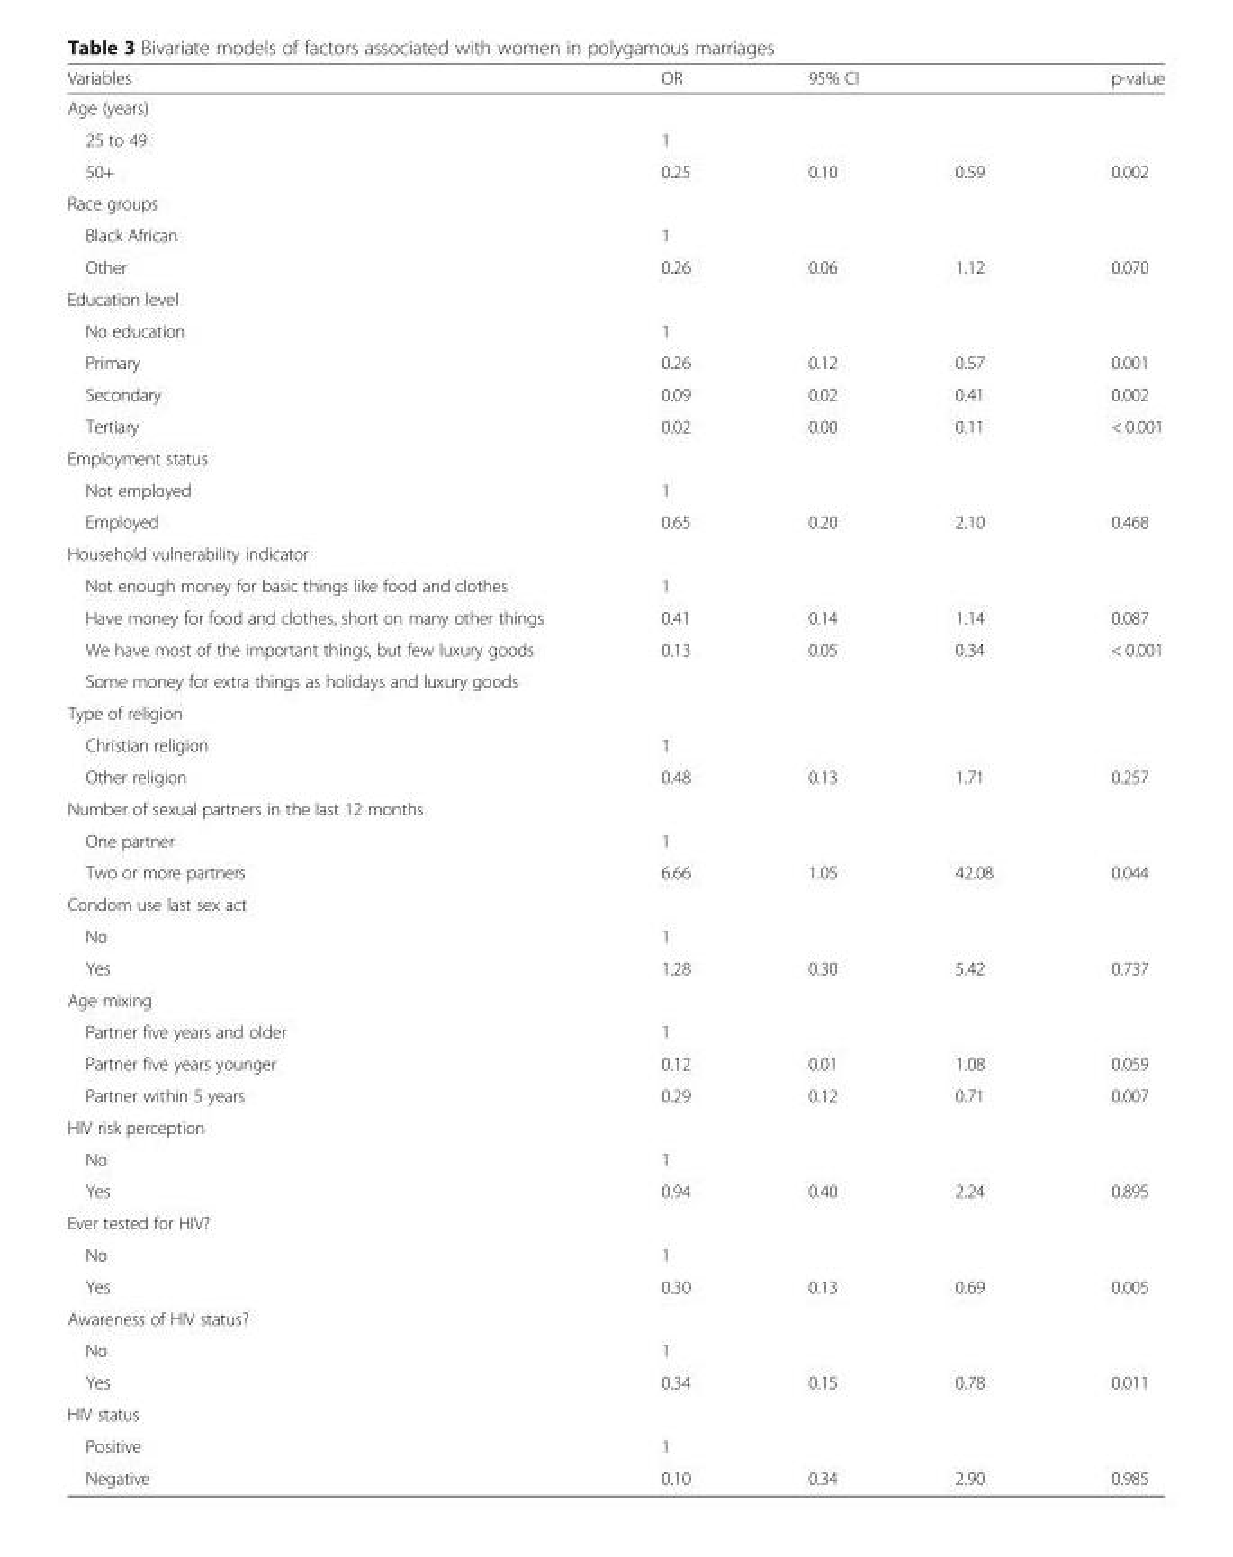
<table><thead><tr><td>Variables</td><td>OR</td><td colspan="2">95% CI</td><td>p-value</td></tr><tr><td colspan="5">Age (years)</td></tr><tr><td>25 to 49</td><td>1</td><td></td><td></td><td></td></tr></thead><tbody><tr><td>50+</td><td>0.25</td><td>0.10</td><td>0.59</td><td>0.002</td></tr><tr><td colspan="5">Race groups</td></tr><tr><td>Black African</td><td>1</td><td></td><td></td><td></td></tr><tr><td>Other</td><td>0.26</td><td>0.06</td><td>1.12</td><td>0.070</td></tr><tr><td colspan="5">Education level</td></tr><tr><td>No education</td><td>1</td><td></td><td></td><td></td></tr><tr><td>Primary</td><td>0.26</td><td>0.12</td><td>0.57</td><td>0.001</td></tr><tr><td>Secondary</td><td>0.09</td><td>0.02</td><td>0.41</td><td>0.002</td></tr><tr><td>Tertiary</td><td>0.02</td><td>0.00</td><td>0.11</td><td>&lt; 0.001</td></tr><tr><td colspan="5">Employment status</td></tr><tr><td>Not employed</td><td>1</td><td></td><td></td><td></td></tr><tr><td>Employed</td><td>0.65</td><td>0.20</td><td>2.10</td><td>0.468</td></tr><tr><td colspan="5">Household vulnerability indicator</td></tr><tr><td>Not enough money for basic things like food and clothes</td><td>1</td><td></td><td></td><td></td></tr><tr><td>Have money for food and clothes, short on many other things</td><td>0.41</td><td>0.14</td><td>1.14</td><td>0.087</td></tr><tr><td>We have most of the important things, but few luxury goods</td><td>0.13</td><td>0.05</td><td>0.34</td><td>&lt; 0.001</td></tr><tr><td colspan="5">Some money for extra things as holidays and luxury goods</td></tr><tr><td colspan="5">Type of religion</td></tr><tr><td>Christian religion</td><td>1</td><td></td><td></td><td></td></tr><tr><td>Other religion</td><td>0.48</td><td>0.13</td><td>1.71</td><td>0.257</td></tr><tr><td colspan="5">Number of sexual partners in the last 12 months</td></tr><tr><td>One partner</td><td>1</td><td></td><td></td><td></td></tr><tr><td>Two or more partners</td><td>6.66</td><td>1.05</td><td>42.08</td><td>0.044</td></tr><tr><td colspan="5">Condom use last sex act</td></tr><tr><td>No</td><td>1</td><td></td><td></td><td></td></tr><tr><td>Yes</td><td>1.28</td><td>0.30</td><td>5.42</td><td>0.737</td></tr><tr><td colspan="5">Age mixing</td></tr><tr><td>Partner five years and older</td><td>1</td><td></td><td></td><td></td></tr><tr><td>Partner five years younger</td><td>0.12</td><td>0.01</td><td>1.08</td><td>0.059</td></tr><tr><td>Partner within 5 years</td><td>0.29</td><td>0.12</td><td>0.71</td><td>0.007</td></tr><tr><td colspan="5">HIV risk perception</td></tr><tr><td>No</td><td>1</td><td></td><td></td><td></td></tr><tr><td>Yes</td><td>0.94</td><td>0.40</td><td>2.24</td><td>0.895</td></tr><tr><td colspan="5">Ever tested for HIV?</td></tr><tr><td>No</td><td>1</td><td></td><td></td><td></td></tr><tr><td>Yes</td><td>0.30</td><td>0.13</td><td>0.69</td><td>0.005</td></tr><tr><td colspan="5">Awareness of HIV status?</td></tr><tr><td>No</td><td>1</td><td></td><td></td><td></td></tr><tr><td>Yes</td><td>0.34</td><td>0.15</td><td>0.78</td><td>0.011</td></tr><tr><td colspan="5">HIV status</td></tr><tr><td>Positive</td><td>1</td><td></td><td></td><td></td></tr><tr><td>Negative</td><td>0.10</td><td>0.34</td><td>2.90</td><td>0.985</td></tr></tbody></table>